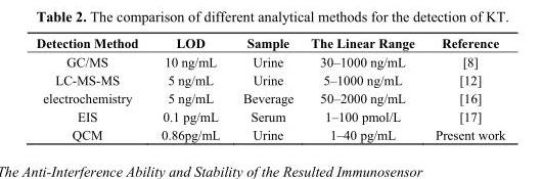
<table><thead><tr><td>Detection Method</td><td>LOD</td><td>Sample</td><td>The Linear Range</td><td>Reference</td></tr></thead><tbody><tr><td>GC/MS</td><td>10 ng/mL</td><td>Urine</td><td>30–1000 ng/mL</td><td>[8]</td></tr><tr><td>LC-MS-MS</td><td>5 ng/mL</td><td>Urine</td><td>5–1000 ng/mL</td><td>[12]</td></tr><tr><td>electrochemistry</td><td>5 ng/mL</td><td>Beverage</td><td>50–2000 ng/mL</td><td>[16]</td></tr><tr><td>EIS</td><td>0.1 pg/mL</td><td>Serum</td><td>1–100 pmol/L</td><td>[17]</td></tr><tr><td>QCM</td><td>0.86pg/mL</td><td>Urine</td><td>1–40 pg/mL</td><td>Present work</td></tr></tbody></table>